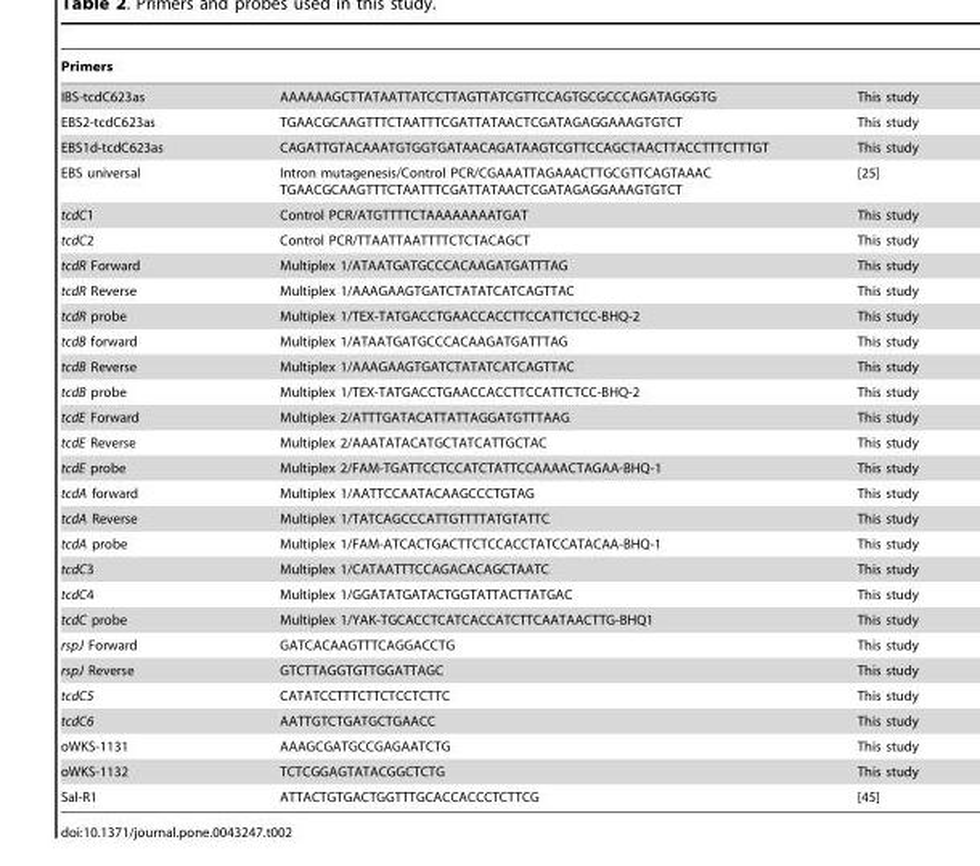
<table><thead><tr><td>Primers</td><td></td><td></td></tr></thead><tbody><tr><td>IBS-tcdC623as</td><td>AAAAAAGCTTATAATTATCCTTAGTTATCGTTCCAGTGCGCCCAGATAGGGTG</td><td>This study</td></tr><tr><td>EBS2-tcdC623as</td><td>TGAACGCAAGTTTCTAATTTCGATTATAACTCGATAGAGGAAAGTGTCT</td><td>This study</td></tr><tr><td>EBS1d-tcdC623as</td><td>CAGATTGTACAAATGTGGTGATAACAGATAAGTCGTTCCAGCTAACTTACCTTTCTTTGT</td><td>This study</td></tr><tr><td>EBS universal</td><td>Intron mutagenesis/Control PCR/CGAAATTAGAAACTTGCGTTCAGTAAAC TGAACGCAAGTTTCTAATTTCGATTATAACTCGATAGAGGAAAGTGTCT</td><td>[25]</td></tr><tr><td>tcdC1</td><td>Control PCR/ATGTTTTCTAAAAAAAATGAT</td><td>This study</td></tr><tr><td>tcdC2</td><td>Control PCR/TTAATTAATTTTCTCTACAGCT</td><td>This study</td></tr><tr><td>tcdR Forward</td><td>Multiplex 1/ATAATGATGCCCACAAGATGATTTAG</td><td>This study</td></tr><tr><td>tcdR Reverse</td><td>Multiplex 1/AAAGAAGTGATCTATATCATCAGTTAC</td><td>This study</td></tr><tr><td>tcdR probe</td><td>Multiplex 1/TEX-TATGACCTGAACCACCTTCCATTCTCC-BHQ-2</td><td>This study</td></tr><tr><td>tcdB forward</td><td>Multiplex 1/ATAATGATGCCCACAAGATGATTTAG</td><td>This study</td></tr><tr><td>tcdB Reverse</td><td>Multiplex 1/AAAGAAGTGATCTATATCATCAGTTAC</td><td>This study</td></tr><tr><td>tcdB probe</td><td>Multiplex 1/TEX-TATGACCTGAACCACCTTCCATTCTCC-BHQ-2</td><td>This study</td></tr><tr><td>tcdE Forward</td><td>Multiplex 2/ATTTGATACATTATTAGGATGTTTAAG</td><td>This study</td></tr><tr><td>tcdE Reverse</td><td>Multiplex 2/AAATATACATGCTATCATTGCTAC</td><td>This study</td></tr><tr><td>tcdE probe</td><td>Multiplex 2/FAM-TGATTCCTCCATCTATTCCAAAACTAGAA-BHQ-1</td><td>This study</td></tr><tr><td>tcdA forward</td><td>Multiplex 1/AATTCCAATACAAGCCCTGTAG</td><td>This study</td></tr><tr><td>tcdA Reverse</td><td>Multiplex 1/TATCAGCCCATTGTTTTATGTATTC</td><td>This study</td></tr><tr><td>tcdA probe</td><td>Multiplex 1/FAM-ATCACTGACTTCTCCACCTATCCATACAA-BHQ-1</td><td>This study</td></tr><tr><td>tcdC3</td><td>Multiplex 1/CATAATTTCCAGACACAGCTAATC</td><td>This study</td></tr><tr><td>tcdC4</td><td>Multiplex 1/GGATATGATACTGGTATTACTTATGAC</td><td>This study</td></tr><tr><td>tcdC probe</td><td>Multiplex 1/YAK-TGCACCTCATCACCATCTTCAATAACTTG-BHQ1</td><td>This study</td></tr><tr><td>rspJ Forward</td><td>GATCACAAGTTTCAGGACCTG</td><td>This study</td></tr><tr><td>rspJ Reverse</td><td>GTCTTAGGTGTTGGATTAGC</td><td>This study</td></tr><tr><td>tcdC5</td><td>CATATCCTTTCTTCTCCTCTTC</td><td>This study</td></tr><tr><td>tcdC6</td><td>AATTGTCTGATGCTGAACC</td><td>This study</td></tr><tr><td>oWKS-1131</td><td>AAAGCGATGCCGAGAATCTG</td><td>This study</td></tr><tr><td>oWKS-1132</td><td>TCTCGGAGTATACGGCTCTG</td><td>This study</td></tr><tr><td>Sal-R1</td><td>ATTACTGTGACTGGTTTGCACCACCCTCTTCG</td><td>[45]</td></tr></tbody></table>